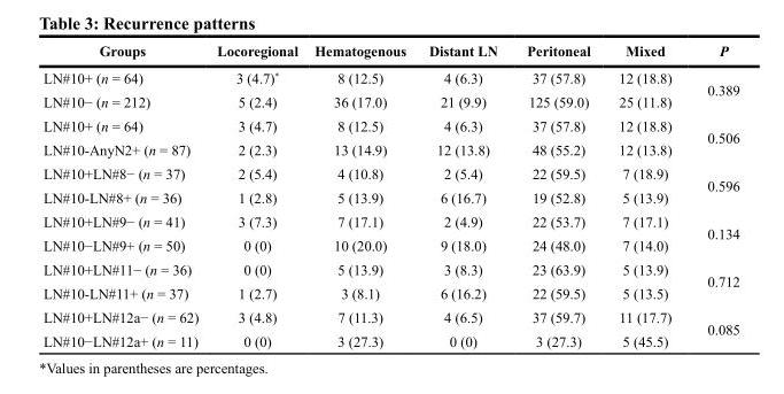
<table><thead><tr><td>Groups</td><td>Locoregional</td><td>Hematogenous</td><td>Distant LN</td><td>Peritoneal</td><td>Mixed</td><td>P</td></tr></thead><tbody><tr><td>LN#10+ (n = 64)</td><td>3 (4.7)*</td><td>8 (12.5)</td><td>4 (6.3)</td><td>37 (57.8)</td><td>12 (18.8)</td><td rowspan="2">0.389</td></tr><tr><td>LN#10− (n = 212)</td><td>5 (2.4)</td><td>36 (17.0)</td><td>21 (9.9)</td><td>125 (59.0)</td><td>25 (11.8)</td></tr><tr><td>LN#10+ (n = 64)</td><td>3 (4.7)</td><td>8 (12.5)</td><td>4 (6.3)</td><td>37 (57.8)</td><td>12 (18.8)</td><td rowspan="2">0.506</td></tr><tr><td>LN#10-AnyN2+ (n = 87)</td><td>2 (2.3)</td><td>13 (14.9)</td><td>12 (13.8)</td><td>48 (55.2)</td><td>12 (13.8)</td></tr><tr><td>LN#10+LN#8− (n = 37)</td><td>2 (5.4)</td><td>4 (10.8)</td><td>2 (5.4)</td><td>22 (59.5)</td><td>7 (18.9)</td><td rowspan="2">0.596</td></tr><tr><td>LN#10-LN#8+ (n = 36)</td><td>1 (2.8)</td><td>5 (13.9)</td><td>6 (16.7)</td><td>19 (52.8)</td><td>5 (13.9)</td></tr><tr><td>LN#10+LN#9− (n = 41)</td><td>3 (7.3)</td><td>7 (17.1)</td><td>2 (4.9)</td><td>22 (53.7)</td><td>7 (17.1)</td><td rowspan="2">0.134</td></tr><tr><td>LN#10−LN#9+ (n = 50)</td><td>0 (0)</td><td>10 (20.0)</td><td>9 (18.0)</td><td>24 (48.0)</td><td>7 (14.0)</td></tr><tr><td>LN#10+LN#11− (n = 36)</td><td>0 (0)</td><td>5 (13.9)</td><td>3 (8.3)</td><td>23 (63.9)</td><td>5 (13.9)</td><td rowspan="2">0.712</td></tr><tr><td>LN#10-LN#11+ (n = 37)</td><td>1 (2.7)</td><td>3 (8.1)</td><td>6 (16.2)</td><td>22 (59.5)</td><td>5 (13.5)</td></tr><tr><td>LN#10+LN#12a− (n = 62)</td><td>3 (4.8)</td><td>7 (11.3)</td><td>4 (6.5)</td><td>37 (59.7)</td><td>11 (17.7)</td><td rowspan="2">0.085</td></tr><tr><td>LN#10−LN#12a+ (n = 11)</td><td>0 (0)</td><td>3 (27.3)</td><td>0 (0)</td><td>3 (27.3)</td><td>5 (45.5)</td></tr></tbody></table>